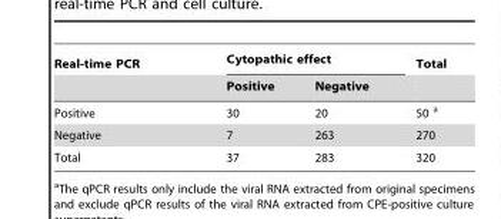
<table><thead><tr><td rowspan="2">Real-time PCR</td><td colspan="2">Cytopathic effect</td><td rowspan="2">Total</td></tr><tr><td>Positive</td><td>Negative</td></tr></thead><tbody><tr><td>Positive</td><td>30</td><td>20</td><td>50 a</td></tr><tr><td>Negative</td><td>7</td><td>263</td><td>270</td></tr><tr><td>Total</td><td>37</td><td>283</td><td>320</td></tr></tbody></table>